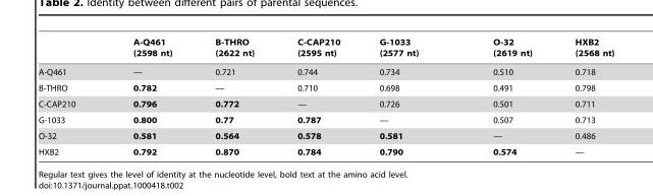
<table><thead><tr><td></td><td>A-Q461 (2598 nt)</td><td>B-THRO (2622 nt)</td><td>C-CAP210 (2595 nt)</td><td>G-1033 (2577 nt)</td><td>O-32 (2619 nt)</td><td>HXB2 (2568 nt)</td></tr></thead><tbody><tr><td>A-Q461</td><td>—</td><td>0.721</td><td>0.744</td><td>0.734</td><td>0.510</td><td>0.718</td></tr><tr><td>B-THRO</td><td>0.782</td><td>—</td><td>0.710</td><td>0.698</td><td>0.491</td><td>0.798</td></tr><tr><td>C-CAP210</td><td>0.796</td><td>0.772</td><td>—</td><td>0.726</td><td>0.501</td><td>0.711</td></tr><tr><td>G-1033</td><td>0.800</td><td>0.77</td><td>0.787</td><td>—</td><td>0.507</td><td>0.713</td></tr><tr><td>O-32</td><td>0.581</td><td>0.564</td><td>0.578</td><td>0.581</td><td>—</td><td>0.486</td></tr><tr><td>HXB2</td><td>0.792</td><td>0.870</td><td>0.784</td><td>0.790</td><td>0.574</td><td>—</td></tr></tbody></table>